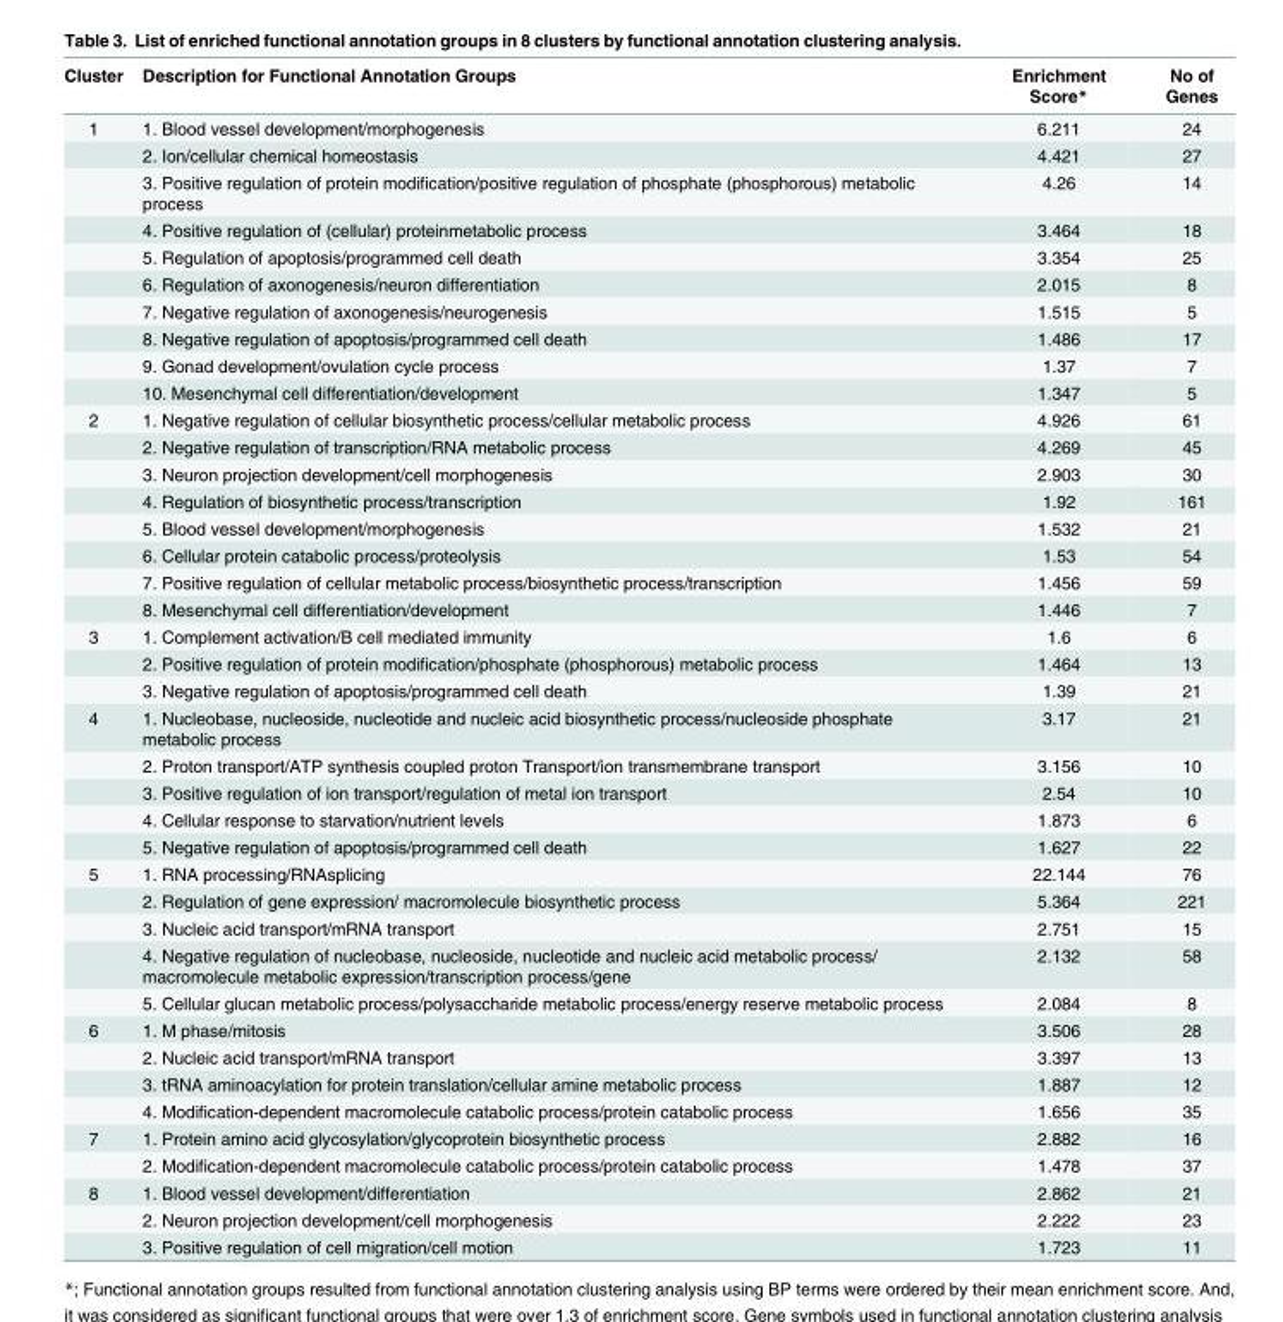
<table><thead><tr><td>Cluster</td><td>Description for Functional Annotation Groups</td><td>Enrichment Score*</td><td>No of Genes</td></tr></thead><tbody><tr><td rowspan="10">1</td><td>1. Blood vessel development/morphogenesis</td><td>6.211</td><td>24</td></tr><tr><td>2. Ion/cellular chemical homeostasis</td><td>4.421</td><td>27</td></tr><tr><td>3. Positive regulation of protein modification/positive regulation of phosphate (phosphorous) metabolic process</td><td>4.26</td><td>14</td></tr><tr><td>4. Positive regulation of (cellular) proteinmetabolic process</td><td>3.464</td><td>18</td></tr><tr><td>5. Regulation of apoptosis/programmed cell death</td><td>3.354</td><td>25</td></tr><tr><td>6. Regulation of axonogenesis/neuron differentiation</td><td>2.015</td><td>8</td></tr><tr><td>7. Negative regulation of axonogenesis/neurogenesis</td><td>1.515</td><td>5</td></tr><tr><td>8. Negative regulation of apoptosis/programmed cell death</td><td>1.486</td><td>17</td></tr><tr><td>9. Gonad development/ovulation cycle process</td><td>1.37</td><td>7</td></tr><tr><td>10. Mesenchymal cell differentiation/development</td><td>1.347</td><td>5</td></tr><tr><td rowspan="8">2</td><td>1. Negative regulation of cellular biosynthetic process/cellular metabolic process</td><td>4.926</td><td>61</td></tr><tr><td>2. Negative regulation of transcription/RNA metabolic process</td><td>4.269</td><td>45</td></tr><tr><td>3. Neuron projection development/cell morphogenesis</td><td>2.903</td><td>30</td></tr><tr><td>4. Regulation of biosynthetic process/transcription</td><td>1.92</td><td>161</td></tr><tr><td>5. Blood vessel development/morphogenesis</td><td>1.532</td><td>21</td></tr><tr><td>6. Cellular protein catabolic process/proteolysis</td><td>1.53</td><td>54</td></tr><tr><td>7. Positive regulation of cellular metabolic process/biosynthetic process/transcription</td><td>1.456</td><td>59</td></tr><tr><td>8. Mesenchymal cell differentiation/development</td><td>1.446</td><td>7</td></tr><tr><td rowspan="3">3</td><td>1. Complement activation/B cell mediated immunity</td><td>1.6</td><td>6</td></tr><tr><td>2. Positive regulation of protein modification/phosphate (phosphorous) metabolic process</td><td>1.464</td><td>13</td></tr><tr><td>3. Negative regulation of apoptosis/programmed cell death</td><td>1.39</td><td>21</td></tr><tr><td rowspan="5">4</td><td>1. Nucleobase, nucleoside, nucleotide and nucleic acid biosynthetic process/nucleoside phosphate metabolic process</td><td>3.17</td><td>21</td></tr><tr><td>2. Proton transport/ATP synthesis coupled proton Transport/ion transmembrane transport</td><td>3.156</td><td>10</td></tr><tr><td>3. Positive regulation of ion transport/regulation of metal ion transport</td><td>2.54</td><td>10</td></tr><tr><td>4. Cellular response to starvation/nutrient levels</td><td>1.873</td><td>6</td></tr><tr><td>5. Negative regulation of apoptosis/programmed cell death</td><td>1.627</td><td>22</td></tr><tr><td rowspan="5">5</td><td>1. RNA processing/RNAsplicing</td><td>22.144</td><td>76</td></tr><tr><td>2. Regulation of gene expression/ macromolecule biosynthetic process</td><td>5.364</td><td>221</td></tr><tr><td>3. Nucleic acid transport/mRNA transport</td><td>2.751</td><td>15</td></tr><tr><td>4. Negative regulation of nucleobase, nucleoside, nucleotide and nucleic acid metabolic process/ macromolecule metabolic expression/transcription process/gene</td><td>2.132</td><td>58</td></tr><tr><td>5. Cellular glucan metabolic process/polysaccharide metabolic process/energy reserve metabolic process</td><td>2.084</td><td>8</td></tr><tr><td rowspan="4">6</td><td>1. M phase/mitosis</td><td>3.506</td><td>28</td></tr><tr><td>2. Nucleic acid transport/mRNA transport</td><td>3.397</td><td>13</td></tr><tr><td>3. tRNA aminoacylation for protein translation/cellular amine metabolic process</td><td>1.887</td><td>12</td></tr><tr><td>4. Modification-dependent macromolecule catabolic process/protein catabolic process</td><td>1.656</td><td>35</td></tr><tr><td rowspan="2">7</td><td>1. Protein amino acid glycosylation/glycoprotein biosynthetic process</td><td>2.882</td><td>16</td></tr><tr><td>2. Modification-dependent macromolecule catabolic process/protein catabolic process</td><td>1.478</td><td>37</td></tr><tr><td rowspan="3">8</td><td>1. Blood vessel development/differentiation</td><td>2.862</td><td>21</td></tr><tr><td>2. Neuron projection development/cell morphogenesis</td><td>2.222</td><td>23</td></tr><tr><td>3. Positive regulation of cell migration/cell motion</td><td>1.723</td><td>11</td></tr></tbody></table>